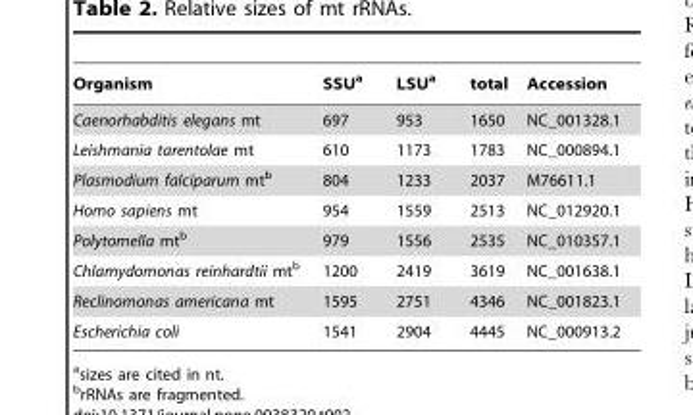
<table><thead><tr><td>Organism</td><td>SSU<sup>a</sup></td><td>LSU<sup>a</sup></td><td>total</td><td>Accession</td></tr></thead><tbody><tr><td>Caenorhabditis elegans mt</td><td>697</td><td>953</td><td>1650</td><td>NC_001328.1</td></tr><tr><td>Leishmania tarentolae mt</td><td>610</td><td>1173</td><td>1783</td><td>NC_000894.1</td></tr><tr><td>Plasmodium falciparum mt<sup>b</sup></td><td>804</td><td>1233</td><td>2037</td><td>M76611.1</td></tr><tr><td>Homo sapiens mt</td><td>954</td><td>1559</td><td>2513</td><td>NC_012920.1</td></tr><tr><td>Polytomella mt<sup>b</sup></td><td>979</td><td>1556</td><td>2535</td><td>NC_010357.1</td></tr><tr><td>Chlamydomonas reinhardtii mt<sup>b</sup></td><td>1200</td><td>2419</td><td>3619</td><td>NC_001638.1</td></tr><tr><td>Reclinomonas americana mt</td><td>1595</td><td>2751</td><td>4346</td><td>NC_001823.1</td></tr><tr><td>Escherichia coli</td><td>1541</td><td>2904</td><td>4445</td><td>NC_000913.2</td></tr></tbody></table>